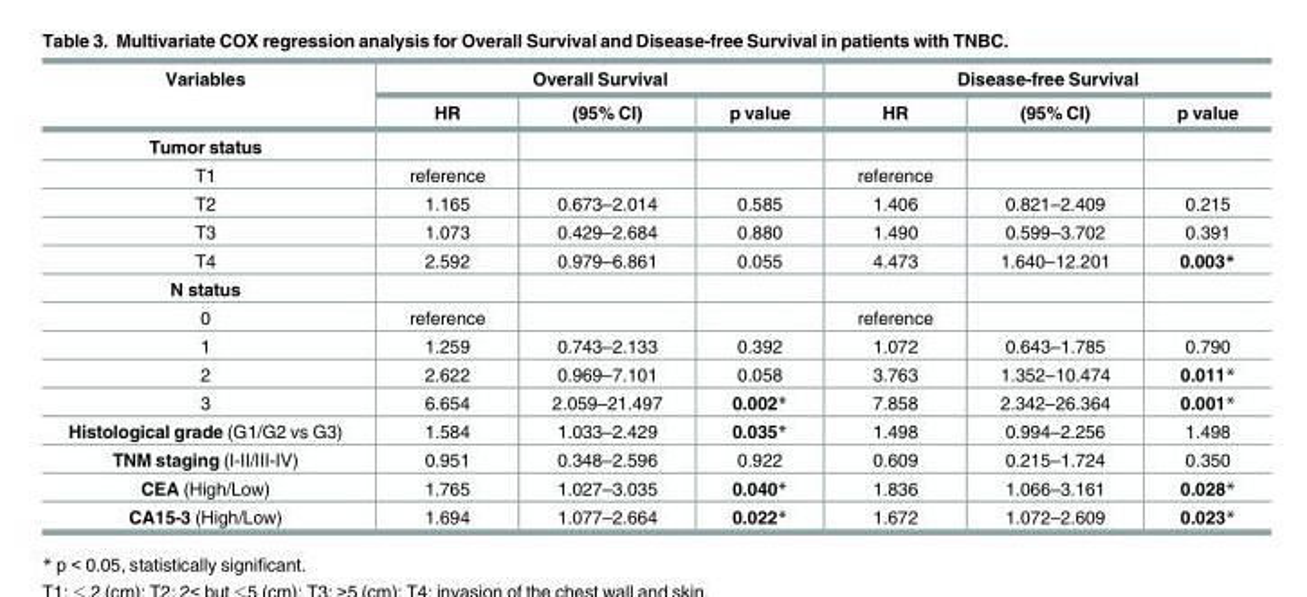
<table><thead><tr><td rowspan="2">Variables</td><td colspan="3">Overall Survival</td><td colspan="3">Disease-free Survival</td></tr><tr><td>HR</td><td>(95% CI)</td><td>p value</td><td>HR</td><td>(95% CI)</td><td>p value</td></tr></thead><tbody><tr><td colspan="7">Tumor status</td></tr><tr><td>T1</td><td>reference</td><td></td><td></td><td>reference</td><td></td><td></td></tr><tr><td>T2</td><td>1.165</td><td>0.673–2.014</td><td>0.585</td><td>1.406</td><td>0.821–2.409</td><td>0.215</td></tr><tr><td>T3</td><td>1.073</td><td>0.429–2.684</td><td>0.880</td><td>1.490</td><td>0.599–3.702</td><td>0.391</td></tr><tr><td>T4</td><td>2.592</td><td>0.979–6.861</td><td>0.055</td><td>4.473</td><td>1.640–12.201</td><td>0.003*</td></tr><tr><td colspan="7">N status</td></tr><tr><td>0</td><td>reference</td><td></td><td></td><td>reference</td><td></td><td></td></tr><tr><td>1</td><td>1.259</td><td>0.743–2.133</td><td>0.392</td><td>1.072</td><td>0.643–1.785</td><td>0.790</td></tr><tr><td>2</td><td>2.622</td><td>0.969–7.101</td><td>0.058</td><td>3.763</td><td>1.352–10.474</td><td>0.011*</td></tr><tr><td>3</td><td>6.654</td><td>2.059–21.497</td><td>0.002*</td><td>7.858</td><td>2.342–26.364</td><td>0.001*</td></tr><tr><td>Histological grade (G1/G2 vs G3)</td><td>1.584</td><td>1.033–2.429</td><td>0.035*</td><td>1.498</td><td>0.994–2.256</td><td>1.498</td></tr><tr><td>TNM staging (I-II/III-IV)</td><td>0.951</td><td>0.348–2.596</td><td>0.922</td><td>0.609</td><td>0.215–1.724</td><td>0.350</td></tr><tr><td>CEA (High/Low)</td><td>1.765</td><td>1.027–3.035</td><td>0.040*</td><td>1.836</td><td>1.066–3.161</td><td>0.028*</td></tr><tr><td>CA15-3 (High/Low)</td><td>1.694</td><td>1.077–2.664</td><td>0.022*</td><td>1.672</td><td>1.072–2.609</td><td>0.023*</td></tr></tbody></table>